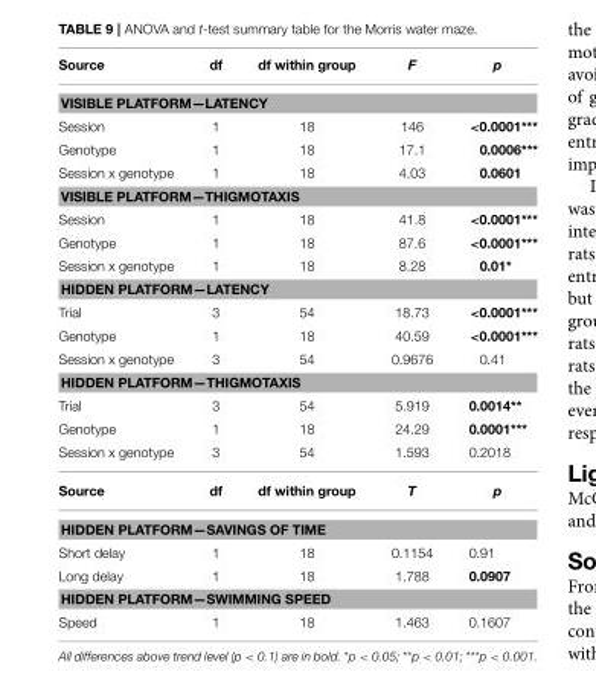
<table><thead><tr><td>Source</td><td>df</td><td>df within group</td><td>F</td><td>p</td></tr></thead><tbody><tr><td colspan="5">VISIBLE PLATFORM—LATENCY</td></tr><tr><td>Session</td><td>1</td><td>18</td><td>146</td><td>&lt;0.0001***</td></tr><tr><td>Genotype</td><td>1</td><td>18</td><td>17.1</td><td>0.0006***</td></tr><tr><td>Session x genotype</td><td>1</td><td>18</td><td>4.03</td><td>0.0601</td></tr><tr><td colspan="5">VISIBLE PLATFORM—THIGMOTAXIS</td></tr><tr><td>Session</td><td>1</td><td>18</td><td>41.8</td><td>&lt;0.0001***</td></tr><tr><td>Genotype</td><td>1</td><td>18</td><td>87.6</td><td>&lt;0.0001***</td></tr><tr><td>Session x genotype</td><td>1</td><td>18</td><td>8.28</td><td>0.01*</td></tr><tr><td colspan="5">HIDDEN PLATFORM—LATENCY</td></tr><tr><td>Trial</td><td>3</td><td>54</td><td>18.73</td><td>&lt;0.0001***</td></tr><tr><td>Genotype</td><td>1</td><td>18</td><td>40.59</td><td>&lt;0.0001***</td></tr><tr><td>Session x genotype</td><td>3</td><td>54</td><td>0.9676</td><td>0.41</td></tr><tr><td colspan="5">HIDDEN PLATFORM—THIGMOTAXIS</td></tr><tr><td>Trial</td><td>3</td><td>54</td><td>5.919</td><td>0.0014**</td></tr><tr><td>Genotype</td><td>1</td><td>18</td><td>24.29</td><td>0.0001***</td></tr><tr><td>Session x genotype</td><td>3</td><td>54</td><td>1.593</td><td>0.2018</td></tr><tr><td>Source</td><td>df</td><td>df within group</td><td>T</td><td>p</td></tr><tr><td colspan="5">HIDDEN PLATFORM—SAVINGS OF TIME</td></tr><tr><td>Short delay</td><td>1</td><td>18</td><td>0.1154</td><td>0.91</td></tr><tr><td>Long delay</td><td>1</td><td>18</td><td>1.788</td><td>0.0907</td></tr><tr><td colspan="5">HIDDEN PLATFORM—SWIMMING SPEED</td></tr><tr><td>Speed</td><td>1</td><td>18</td><td>1.463</td><td>0.1607</td></tr></tbody></table>